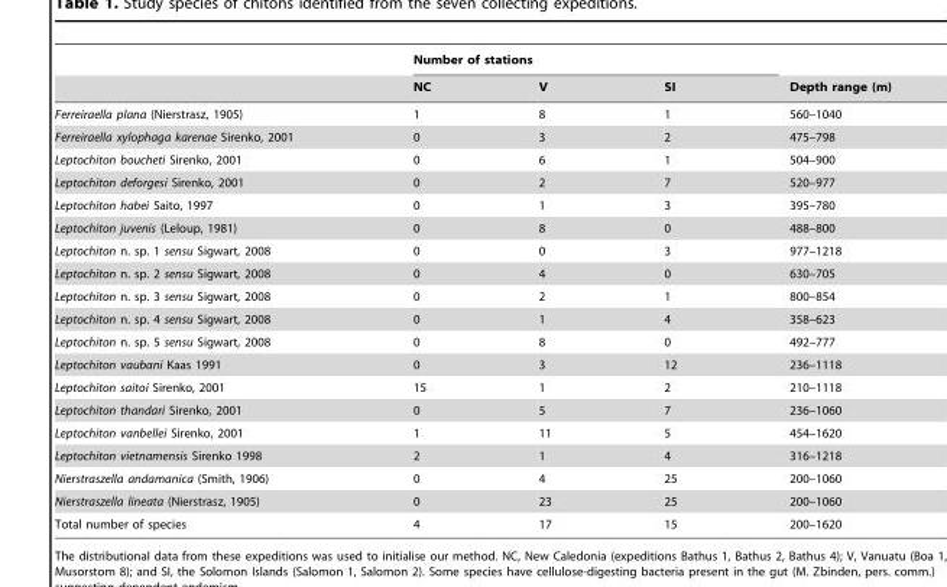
<table><thead><tr><td rowspan="2"></td><td colspan="3">Number of stations</td><td rowspan="2">Depth range (m)</td></tr><tr><td>NC</td><td>V</td><td>SI</td></tr></thead><tbody><tr><td>Ferreiraella plana (Nierstrasz, 1905)</td><td>1</td><td>8</td><td>1</td><td>560–1040</td></tr><tr><td>Ferreiraella xylophaga karenae Sirenko, 2001</td><td>0</td><td>3</td><td>2</td><td>475–798</td></tr><tr><td>Leptochiton boucheti Sirenko, 2001</td><td>0</td><td>6</td><td>1</td><td>504–900</td></tr><tr><td>Leptochiton deforgesi Sirenko, 2001</td><td>0</td><td>2</td><td>7</td><td>520–977</td></tr><tr><td>Leptochiton habei Saito, 1997</td><td>0</td><td>1</td><td>3</td><td>395–780</td></tr><tr><td>Leptochiton juvenis (Leloup, 1981)</td><td>0</td><td>8</td><td>0</td><td>488–800</td></tr><tr><td>Leptochiton n. sp. 1 sensu Sigwart, 2008</td><td>0</td><td>0</td><td>3</td><td>977–1218</td></tr><tr><td>Leptochiton n. sp. 2 sensu Sigwart, 2008</td><td>0</td><td>4</td><td>0</td><td>630–705</td></tr><tr><td>Leptochiton n. sp. 3 sensu Sigwart, 2008</td><td>0</td><td>2</td><td>1</td><td>800–854</td></tr><tr><td>Leptochiton n. sp. 4 sensu Sigwart, 2008</td><td>0</td><td>1</td><td>4</td><td>358–623</td></tr><tr><td>Leptochiton n. sp. 5 sensu Sigwart, 2008</td><td>0</td><td>8</td><td>0</td><td>492–777</td></tr><tr><td>Leptochiton vaubani Kaas 1991</td><td>0</td><td>3</td><td>12</td><td>236–1118</td></tr><tr><td>Leptochiton saitoi Sirenko, 2001</td><td>15</td><td>1</td><td>2</td><td>210–1118</td></tr><tr><td>Leptochiton thandari Sirenko, 2001</td><td>0</td><td>5</td><td>7</td><td>236–1060</td></tr><tr><td>Leptochiton vanbellei Sirenko, 2001</td><td>1</td><td>11</td><td>5</td><td>454–1620</td></tr><tr><td>Leptochiton vietnamensis Sirenko 1998</td><td>2</td><td>1</td><td>4</td><td>316–1218</td></tr><tr><td>Nierstraszella andamanica (Smith, 1906)</td><td>0</td><td>4</td><td>25</td><td>200–1060</td></tr><tr><td>Nierstraszella lineata (Nierstrasz, 1905)</td><td>0</td><td>23</td><td>25</td><td>200–1060</td></tr><tr><td>Total number of species</td><td>4</td><td>17</td><td>15</td><td>200–1620</td></tr></tbody></table>